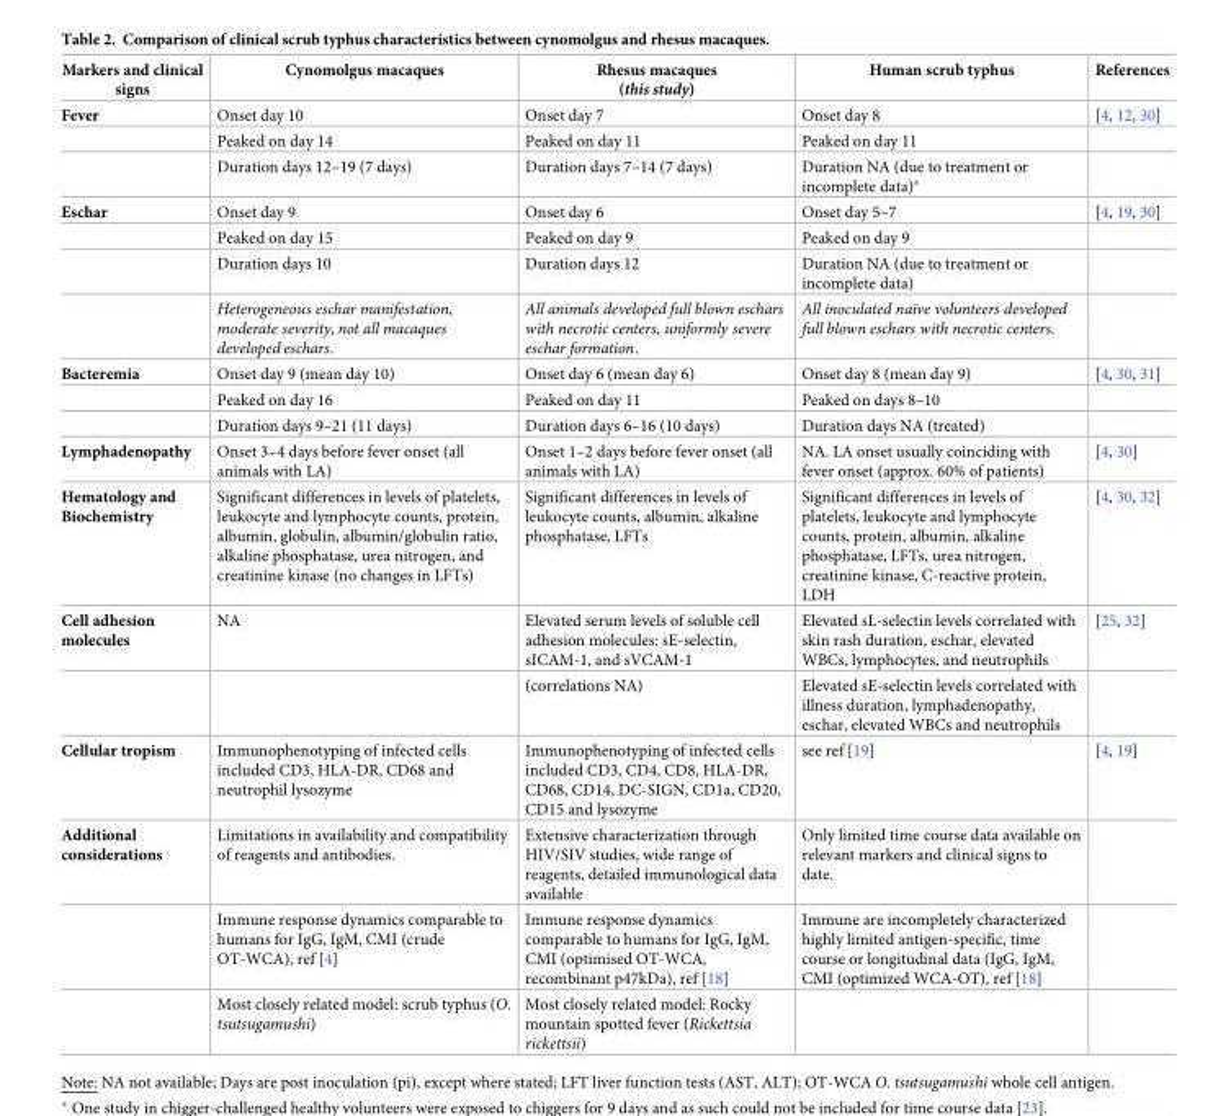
<table><thead><tr><td>Markers and clinical signs</td><td>Cynomolgus macaques</td><td>Rhesus macaques (this study)</td><td>Human scrub typhus</td><td>References</td></tr></thead><tbody><tr><td rowspan="3">Fever</td><td>Onset day 10</td><td>Onset day 7</td><td>Onset day 8</td><td>[4, 12, 30]</td></tr><tr><td>Peaked on day 14</td><td>Peaked on day 11</td><td>Peaked on day 11</td><td></td></tr><tr><td>Duration days 12–19 (7 days)</td><td>Duration days 7–14 (7 days)</td><td>Duration NA (due to treatment or incomplete data)*</td><td></td></tr><tr><td rowspan="4">Eschar</td><td>Onset day 9</td><td>Onset day 6</td><td>Onset day 5–7</td><td>[4, 19, 30]</td></tr><tr><td>Peaked on day 15</td><td>Peaked on day 9</td><td>Peaked on day 9</td><td></td></tr><tr><td>Duration days 10</td><td>Duration days 12</td><td>Duration NA (due to treatment or incomplete data)</td><td></td></tr><tr><td>Heterogeneous eschar manifestation, moderate severity, not all macaques developed eschars.</td><td>All animals developed full blown eschars with necrotic centers, uniformly severe eschar formation.</td><td>All inoculated naïve volunteers developed full blown eschars with necrotic centers.</td><td></td></tr><tr><td rowspan="3">Bacteremia</td><td>Onset day 9 (mean day 10)</td><td>Onset day 6 (mean day 6)</td><td>Onset day 8 (mean day 9)</td><td>[4, 30, 31]</td></tr><tr><td>Peaked on day 16</td><td>Peaked on day 11</td><td>Peaked on days 8–10</td><td></td></tr><tr><td>Duration days 9–21 (11 days)</td><td>Duration days 6–16 (10 days)</td><td>Duration days NA (treated)</td><td></td></tr><tr><td>Lymphadenopathy</td><td>Onset 3–4 days before fever onset (all animals with LA)</td><td>Onset 1–2 days before fever onset (all animals with LA)</td><td>NA. LA onset usually coinciding with fever onset (approx. 60% of patients)</td><td>[4, 30]</td></tr><tr><td>Hematology and Biochemistry</td><td>Significant differences in levels of platelets, leukocyte and lymphocyte counts, protein, albumin, globulin, albumin/globulin ratio, alkaline phosphatase, urea nitrogen, and creatinine kinase (no changes in LFTs)</td><td>Significant differences in levels of leukocyte counts, albumin, alkaline phosphatase, LFTs</td><td>Significant differences in levels of platelets, leukocyte and lymphocyte counts, protein, albumin, alkaline phosphatase, LFTs, urea nitrogen, creatinine kinase, C-reactive protein, LDH</td><td>[4, 30, 32]</td></tr><tr><td rowspan="2">Cell adhesion molecules</td><td>NA</td><td>Elevated serum levels of soluble cell adhesion molecules: sE-selectin, sICAM-1, and sVCAM-1</td><td>Elevated sL-selectin levels correlated with skin rash duration, eschar, elevated WBCs, lymphocytes, and neutrophils</td><td>[25, 32]</td></tr><tr><td></td><td>(correlations NA)</td><td>Elevated sE-selectin levels correlated with illness duration, lymphadenopathy, eschar, elevated WBCs and neutrophils</td><td></td></tr><tr><td>Cellular tropism</td><td>Immunophenotyping of infected cells included CD3, HLA-DR, CD68 and neutrophil lysozyme</td><td>Immunophenotyping of infected cells included CD3, CD4, CD8, HLA-DR, CD68, CD14, DC-SIGN, CD1a, CD20, CD15 and lysozyme</td><td>see ref [19]</td><td>[4, 19]</td></tr><tr><td rowspan="3">Additional considerations</td><td>Limitations in availability and compatibility of reagents and antibodies.</td><td>Extensive characterization through HIV/SIV studies, wide range of reagents, detailed immunological data available</td><td>Only limited time course data available on relevant markers and clinical signs to date.</td><td></td></tr><tr><td>Immune response dynamics comparable to humans for IgG, IgM, CMI (crude OT-WCA), ref [4]</td><td>Immune response dynamics comparable to humans for IgG, IgM, CMI (optimised OT-WCA, recombinant p47kDa), ref [18]</td><td>Immune are incompletely characterized highly limited antigen-specific, time course or longitudinal data (IgG, IgM, CMI (optimized WCA-OT), ref [18]</td><td></td></tr><tr><td>Most closely related model: scrub typhus (O. tsutsugamushi)</td><td>Most closely related model: Rocky mountain spotted fever (Rickettsia rickettsii)</td><td></td><td></td></tr></tbody></table>